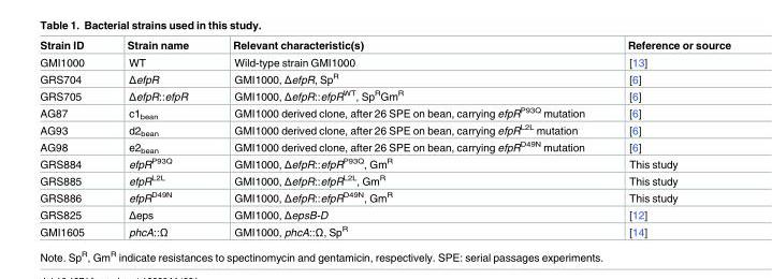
<table><thead><tr><td>Strain ID</td><td>Strain name</td><td>Relevant characteristic(s)</td><td>Reference or source</td></tr></thead><tbody><tr><td>GMI1000</td><td>WT</td><td>Wild-type strain GMI1000</td><td>[13]</td></tr><tr><td>GRS704</td><td>ΔefpR</td><td>GMI1000, ΔefpR, Sp<sup>R</sup></td><td>[6]</td></tr><tr><td>GRS705</td><td>ΔefpR::efpR</td><td>GMI1000, ΔefpR::efpR<sup>WT</sup>, Sp<sup>R</sup>Gm<sup>R</sup></td><td>[6]</td></tr><tr><td>AG87</td><td>c1<sub>bean</sub></td><td>GMI1000 derived clone, after 26 SPE on bean, carrying efpR<sup>P93Q</sup> mutation</td><td>[6]</td></tr><tr><td>AG93</td><td>d2<sub>bean</sub></td><td>GMI1000 derived clone, after 26 SPE on bean, carrying efpR<sup>L2L</sup> mutation</td><td>[6]</td></tr><tr><td>AG98</td><td>e2<sub>bean</sub></td><td>GMI1000 derived clone, after 26 SPE on bean, carrying efpR<sup>D49N</sup> mutation</td><td>[6]</td></tr><tr><td>GRS884</td><td>efpR<sup>P93Q</sup></td><td>GMI1000, ΔefpR::efpR<sup>P93Q</sup>, Gm<sup>R</sup></td><td>This study</td></tr><tr><td>GRS885</td><td>efpR<sup>L2L</sup></td><td>GMI1000, ΔefpR::efpR<sup>L2L</sup>, Gm<sup>R</sup></td><td>This study</td></tr><tr><td>GRS886</td><td>efpR<sup>D49N</sup></td><td>GMI1000, ΔefpR::efpR<sup>D49N</sup>, Gm<sup>R</sup></td><td>This study</td></tr><tr><td>GRS825</td><td>Δeps</td><td>GMI1000, ΔepsB-D</td><td>[12]</td></tr><tr><td>GMI1605</td><td>phcA::Ω</td><td>GMI1000, phcA::Ω, Sp<sup>R</sup></td><td>[14]</td></tr></tbody></table>